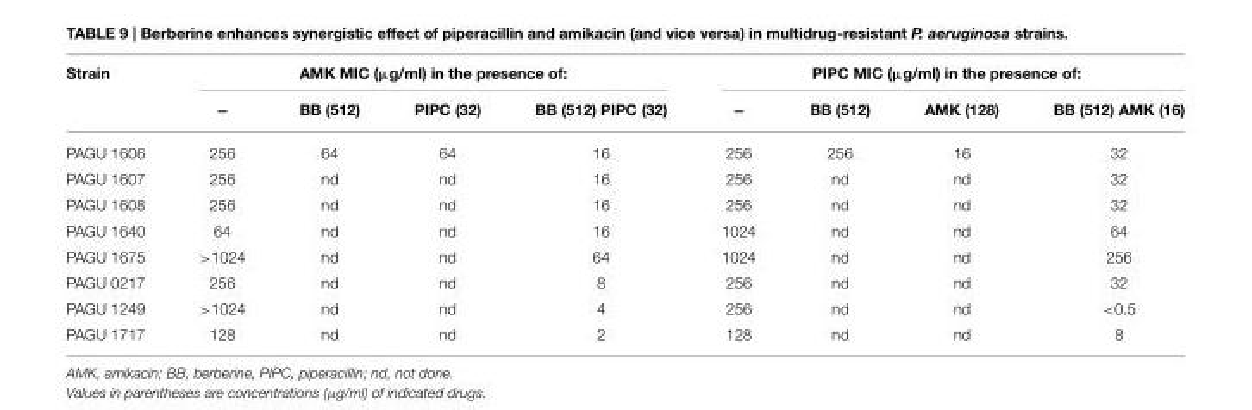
<table><thead><tr><td rowspan="2">Strain</td><td colspan="4">AMK MIC (µg/ml) in the presence of:</td><td colspan="4">PIPC MIC (µg/ml) in the presence of:</td></tr><tr><td>−</td><td>BB (512)</td><td>PIPC (32)</td><td>BB (512) PIPC (32)</td><td>−</td><td>BB (512)</td><td>AMK (128)</td><td>BB (512) AMK (16)</td></tr></thead><tbody><tr><td>PAGU 1606</td><td>256</td><td>64</td><td>64</td><td>16</td><td>256</td><td>256</td><td>16</td><td>32</td></tr><tr><td>PAGU 1607</td><td>256</td><td>nd</td><td>nd</td><td>16</td><td>256</td><td>nd</td><td>nd</td><td>32</td></tr><tr><td>PAGU 1608</td><td>256</td><td>nd</td><td>nd</td><td>16</td><td>256</td><td>nd</td><td>nd</td><td>32</td></tr><tr><td>PAGU 1640</td><td>64</td><td>nd</td><td>nd</td><td>16</td><td>1024</td><td>nd</td><td>nd</td><td>64</td></tr><tr><td>PAGU 1675</td><td>&gt;1024</td><td>nd</td><td>nd</td><td>64</td><td>1024</td><td>nd</td><td>nd</td><td>256</td></tr><tr><td>PAGU 0217</td><td>256</td><td>nd</td><td>nd</td><td>8</td><td>256</td><td>nd</td><td>nd</td><td>32</td></tr><tr><td>PAGU 1249</td><td>&gt;1024</td><td>nd</td><td>nd</td><td>4</td><td>256</td><td>nd</td><td>nd</td><td>&lt;0.5</td></tr><tr><td>PAGU 1717</td><td>128</td><td>nd</td><td>nd</td><td>2</td><td>128</td><td>nd</td><td>nd</td><td>8</td></tr></tbody></table>